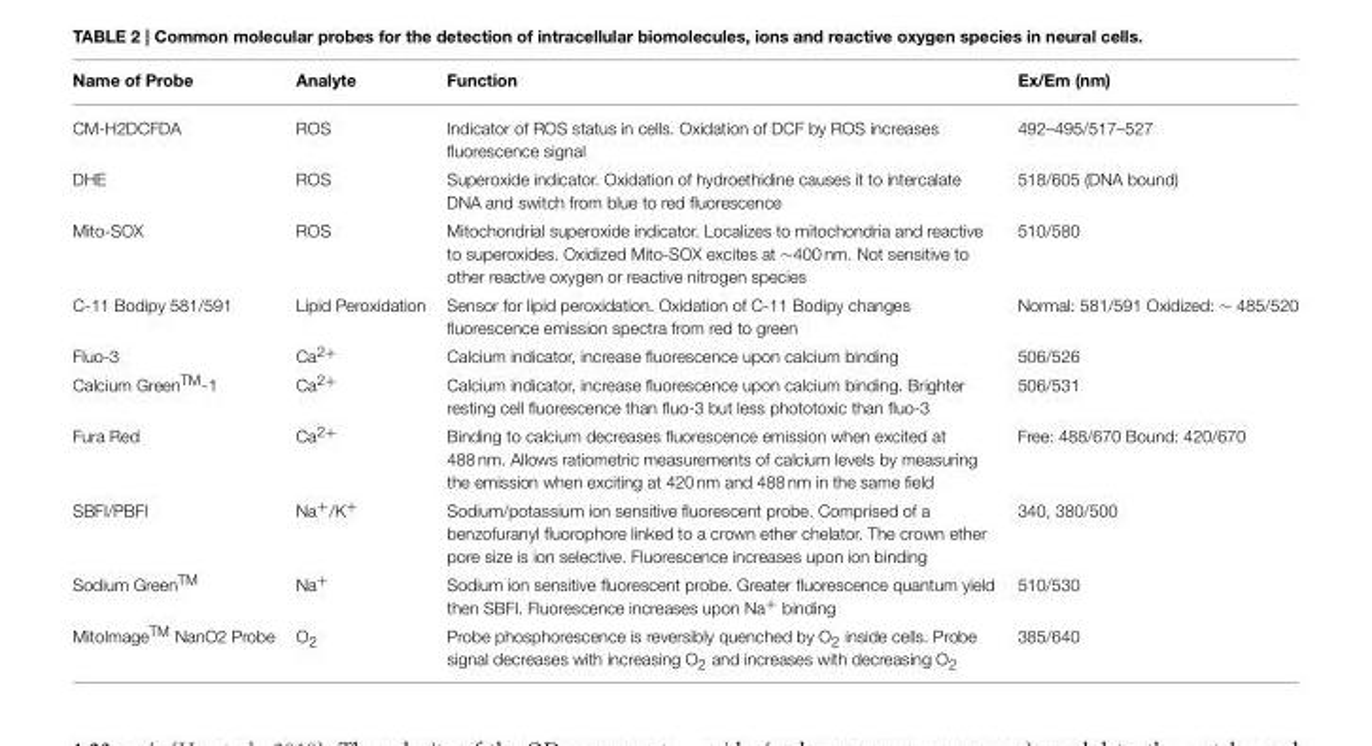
<table><thead><tr><td>Name of Probe</td><td>Analyte</td><td>Function</td><td>Ex/Em (nm)</td></tr></thead><tbody><tr><td>CM-H2DCFDA</td><td>ROS</td><td>Indicator of ROS status in cells. Oxidation of DCF by ROS increases fluorescence signal</td><td>492–495/517–527</td></tr><tr><td>DHE</td><td>ROS</td><td>Superoxide indicator. Oxidation of hydroethidine causes it to intercalate DNA and switch from blue to red fluorescence</td><td>518/605 (DNA bound)</td></tr><tr><td>Mito-SOX</td><td>ROS</td><td>Mitochondrial superoxide indicator. Localizes to mitochondria and reactive to superoxides. Oxidized Mito-SOX excites at ∼400 nm. Not sensitive to other reactive oxygen or reactive nitrogen species</td><td>510/580</td></tr><tr><td>C-11 Bodipy 581/591</td><td>Lipid Peroxidation</td><td>Sensor for lipid peroxidation. Oxidation of C-11 Bodipy changes fluorescence emission spectra from red to green</td><td>Normal: 581/591 Oxidized: ∼ 485/520</td></tr><tr><td>Fluo-3</td><td>Ca<sup>2+</sup></td><td>Calcium indicator, increase fluorescence upon calcium binding</td><td>506/526</td></tr><tr><td>Calcium Green<sup>TM</sup>-1</td><td>Ca<sup>2+</sup></td><td>Calcium indicator, increase fluorescence upon calcium binding. Brighter resting cell fluorescence than fluo-3 but less phototoxic than fluo-3</td><td>506/531</td></tr><tr><td>Fura Red</td><td>Ca<sup>2+</sup></td><td>Binding to calcium decreases fluorescence emission when excited at 488 nm. Allows ratiometric measurements of calcium levels by measuring the emission when exciting at 420 nm and 488 nm in the same field</td><td>Free: 488/670 Bound: 420/670</td></tr><tr><td>SBFI/PBFI</td><td>Na<sup>+</sup>/K<sup>+</sup></td><td>Sodium/potassium ion sensitive fluorescent probe. Comprised of a benzofuranyl fluorophore linked to a crown ether chelator. The crown ether pore size is ion selective. Fluorescence increases upon ion binding</td><td>340, 380/500</td></tr><tr><td>Sodium Green<sup>TM</sup></td><td>Na<sup>+</sup></td><td>Sodium ion sensitive fluorescent probe. Greater fluorescence quantum yield then SBFI. Fluorescence increases upon Na<sup>+</sup> binding</td><td>510/530</td></tr><tr><td>MitoImage<sup>TM</sup> NanO2 Probe</td><td>O<sub>2</sub></td><td>Probe phosphorescence is reversibly quenched by O<sub>2</sub> inside cells. Probe signal decreases with increasing O<sub>2</sub> and increases with decreasing O<sub>2</sub></td><td>385/640</td></tr></tbody></table>